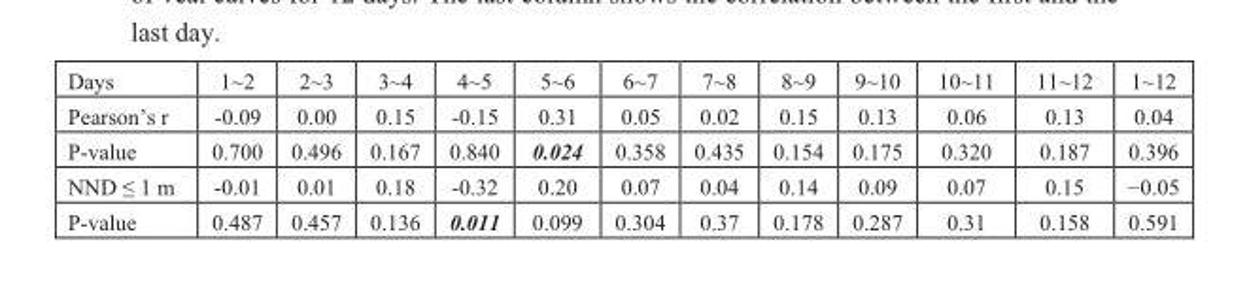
<table><tbody><tr><td>Days</td><td>1~2</td><td>2~3</td><td>3~4</td><td>4~5</td><td>5~6</td><td>6~7</td><td>7~8</td><td>8~9</td><td>9~10</td><td>10~11</td><td>11~12</td><td>1~12</td></tr><tr><td>Pearson’s r</td><td>-0.09</td><td>0.00</td><td>0.15</td><td>-0.15</td><td>0.31</td><td>0.05</td><td>0.02</td><td>0.15</td><td>0.13</td><td>0.06</td><td>0.13</td><td>0.04</td></tr><tr><td>P-value</td><td>0.700</td><td>0.496</td><td>0.167</td><td>0.840</td><td>0.024</td><td>0.358</td><td>0.435</td><td>0.154</td><td>0.175</td><td>0.320</td><td>0.187</td><td>0.396</td></tr><tr><td>NND ≤ 1 m</td><td>-0.01</td><td>0.01</td><td>0.18</td><td>-0.32</td><td>0.20</td><td>0.07</td><td>0.04</td><td>0.14</td><td>0.09</td><td>0.07</td><td>0.15</td><td>−0.05</td></tr><tr><td>P-value</td><td>0.487</td><td>0.457</td><td>0.136</td><td>0.011</td><td>0.099</td><td>0.304</td><td>0.37</td><td>0.178</td><td>0.287</td><td>0.31</td><td>0.158</td><td>0.591</td></tr></tbody></table>